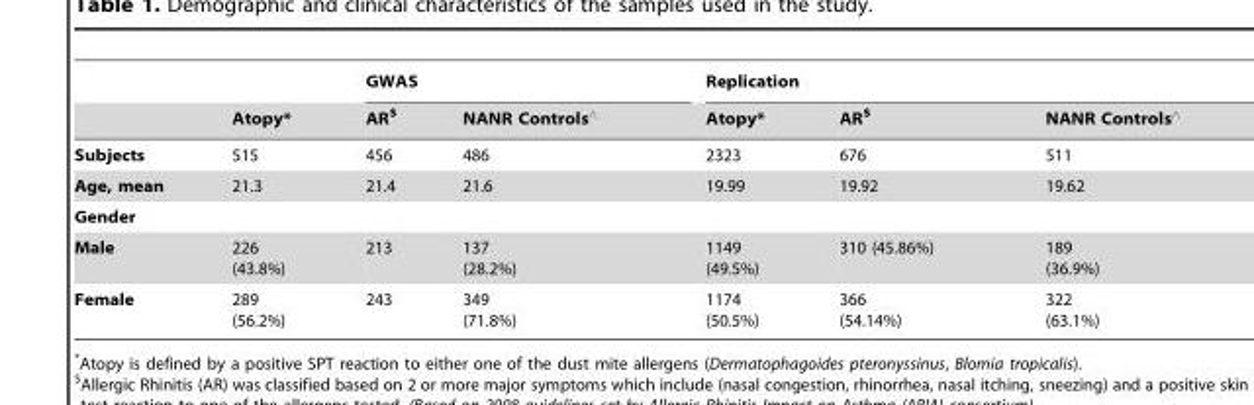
<table><thead><tr><td rowspan="2"></td><td rowspan="2">Atopy*</td><td colspan="2">GWAS</td><td colspan="3">Replication</td></tr><tr><td>AR$</td><td>NANR Controls‘</td><td>Atopy*</td><td>AR$</td><td>NANR Controls‘</td></tr></thead><tbody><tr><td>Subjects</td><td>515</td><td>456</td><td>486</td><td>2323</td><td>676</td><td>511</td></tr><tr><td>Age, mean</td><td>21.3</td><td>21.4</td><td>21.6</td><td>19.99</td><td>19.92</td><td>19.62</td></tr><tr><td colspan="7">Gender</td></tr><tr><td>Male</td><td>226 (43.8%)</td><td>213</td><td>137 (28.2%)</td><td>1149 (49.5%)</td><td>310 (45.86%)</td><td>189 (36.9%)</td></tr><tr><td>Female</td><td>289 (56.2%)</td><td>243</td><td>349 (71.8%)</td><td>1174 (50.5%)</td><td>366 (54.14%)</td><td>322 (63.1%)</td></tr></tbody></table>